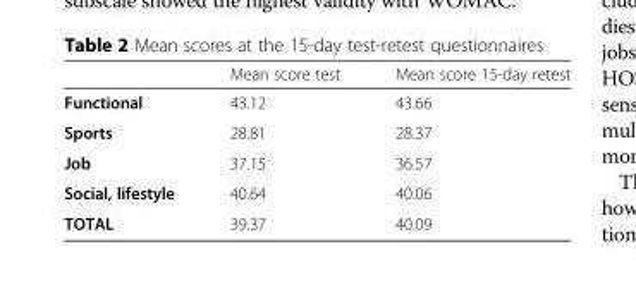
<table><thead><tr><td></td><td>Mean score test</td><td>Mean score 15-day retest</td></tr></thead><tbody><tr><td>Functional</td><td>43.12</td><td>43.66</td></tr><tr><td>Sports</td><td>28.81</td><td>28.37</td></tr><tr><td>Job</td><td>37.15</td><td>36.57</td></tr><tr><td>Social, lifestyle</td><td>40.64</td><td>40.06</td></tr><tr><td>TOTAL</td><td>39.37</td><td>40.09</td></tr></tbody></table>